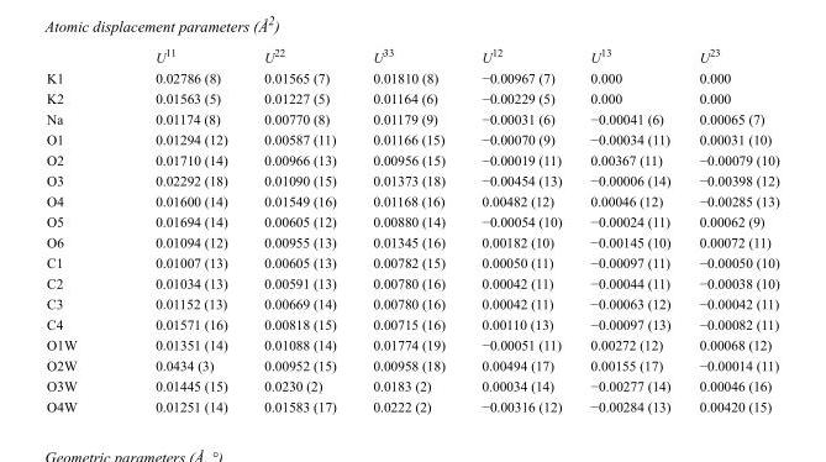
<table><thead><tr><td></td><td>U<sup>11</sup></td><td>U<sup>22</sup></td><td>U<sup>33</sup></td><td>U<sup>12</sup></td><td>U<sup>13</sup></td><td>U<sup>23</sup></td></tr></thead><tbody><tr><td>K1</td><td>0.02786 (8)</td><td>0.01565 (7)</td><td>0.01810 (8)</td><td>−0.00967 (7)</td><td>0.000</td><td>0.000</td></tr><tr><td>K2</td><td>0.01563 (5)</td><td>0.01227 (5)</td><td>0.01164 (6)</td><td>−0.00229 (5)</td><td>0.000</td><td>0.000</td></tr><tr><td>Na</td><td>0.01174 (8)</td><td>0.00770 (8)</td><td>0.01179 (9)</td><td>−0.00031 (6)</td><td>−0.00041 (6)</td><td>0.00065 (7)</td></tr><tr><td>O1</td><td>0.01294 (12)</td><td>0.00587 (11)</td><td>0.01166 (15)</td><td>−0.00070 (9)</td><td>−0.00034 (11)</td><td>0.00031 (10)</td></tr><tr><td>O2</td><td>0.01710 (14)</td><td>0.00966 (13)</td><td>0.00956 (15)</td><td>−0.00019 (11)</td><td>0.00367 (11)</td><td>−0.00079 (10)</td></tr><tr><td>O3</td><td>0.02292 (18)</td><td>0.01090 (15)</td><td>0.01373 (18)</td><td>−0.00454 (13)</td><td>−0.00006 (14)</td><td>−0.00398 (12)</td></tr><tr><td>O4</td><td>0.01600 (14)</td><td>0.01549 (16)</td><td>0.01168 (16)</td><td>0.00482 (12)</td><td>0.00046 (12)</td><td>−0.00285 (13)</td></tr><tr><td>O5</td><td>0.01694 (14)</td><td>0.00605 (12)</td><td>0.00880 (14)</td><td>−0.00054 (10)</td><td>−0.00024 (11)</td><td>0.00062 (9)</td></tr><tr><td>O6</td><td>0.01094 (12)</td><td>0.00955 (13)</td><td>0.01345 (16)</td><td>0.00182 (10)</td><td>−0.00145 (10)</td><td>0.00072 (11)</td></tr><tr><td>C1</td><td>0.01007 (13)</td><td>0.00605 (13)</td><td>0.00782 (15)</td><td>0.00050 (11)</td><td>−0.00097 (11)</td><td>−0.00050 (10)</td></tr><tr><td>C2</td><td>0.01034 (13)</td><td>0.00591 (13)</td><td>0.00780 (16)</td><td>0.00042 (11)</td><td>−0.00044 (11)</td><td>−0.00038 (10)</td></tr><tr><td>C3</td><td>0.01152 (13)</td><td>0.00669 (14)</td><td>0.00780 (16)</td><td>0.00042 (11)</td><td>−0.00063 (12)</td><td>−0.00042 (11)</td></tr><tr><td>C4</td><td>0.01571 (16)</td><td>0.00818 (15)</td><td>0.00715 (16)</td><td>0.00110 (13)</td><td>−0.00097 (13)</td><td>−0.00082 (11)</td></tr><tr><td>O1W</td><td>0.01351 (14)</td><td>0.01088 (14)</td><td>0.01774 (19)</td><td>−0.00051 (11)</td><td>0.00272 (12)</td><td>0.00068 (12)</td></tr><tr><td>O2W</td><td>0.0434 (3)</td><td>0.00952 (15)</td><td>0.00958 (18)</td><td>0.00494 (17)</td><td>0.00155 (17)</td><td>−0.00014 (11)</td></tr><tr><td>O3W</td><td>0.01445 (15)</td><td>0.0230 (2)</td><td>0.0183 (2)</td><td>0.00034 (14)</td><td>−0.00277 (14)</td><td>0.00046 (16)</td></tr><tr><td>O4W</td><td>0.01251 (14)</td><td>0.01583 (17)</td><td>0.0222 (2)</td><td>−0.00316 (12)</td><td>−0.00284 (13)</td><td>0.00420 (15)</td></tr></tbody></table>